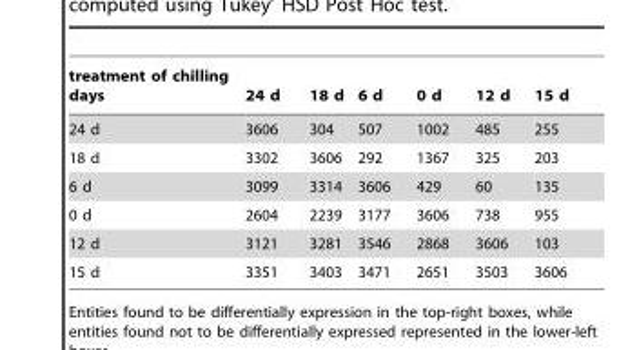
<table><thead><tr><td>treatment of chilling days</td><td>24 d</td><td>18 d</td><td>6 d</td><td>0 d</td><td>12 d</td><td>15 d</td></tr></thead><tbody><tr><td>24 d</td><td>3606</td><td>304</td><td>507</td><td>1002</td><td>485</td><td>255</td></tr><tr><td>18 d</td><td>3302</td><td>3606</td><td>292</td><td>1367</td><td>325</td><td>203</td></tr><tr><td>6 d</td><td>3099</td><td>3314</td><td>3606</td><td>429</td><td>60</td><td>135</td></tr><tr><td>0 d</td><td>2604</td><td>2239</td><td>3177</td><td>3606</td><td>738</td><td>955</td></tr><tr><td>12 d</td><td>3121</td><td>3281</td><td>3546</td><td>2868</td><td>3606</td><td>103</td></tr><tr><td>15 d</td><td>3351</td><td>3403</td><td>3471</td><td>2651</td><td>3503</td><td>3606</td></tr></tbody></table>